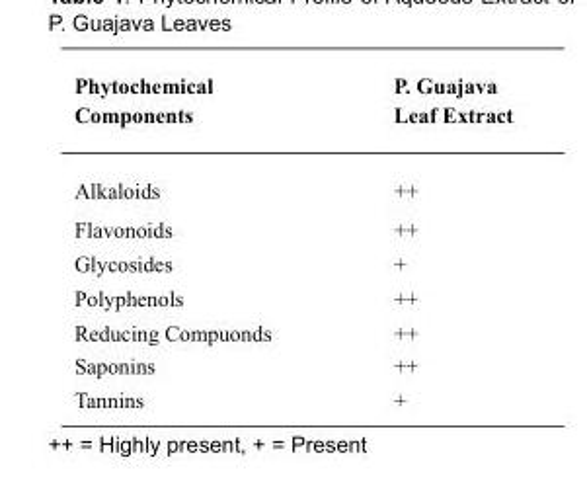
<table><thead><tr><td>Phytochemical Components</td><td>P. Guajava Leaf Extract</td></tr></thead><tbody><tr><td>Alkaloids</td><td>++</td></tr><tr><td>Flavonoids</td><td>++</td></tr><tr><td>Glycosides</td><td>+</td></tr><tr><td>Polyphenols</td><td>++</td></tr><tr><td>Reducing Compuonds</td><td>++</td></tr><tr><td>Saponins</td><td>++</td></tr><tr><td>Tannins</td><td>+</td></tr></tbody></table>